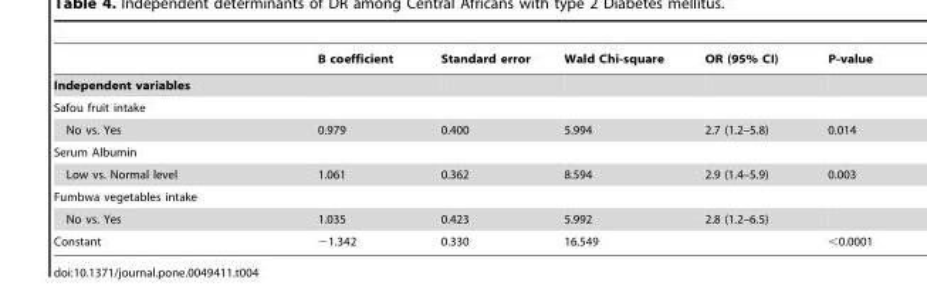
<table><thead><tr><td></td><td>B coefficient</td><td>Standard error</td><td>Wald Chi-square</td><td>OR (95% CI)</td><td>P-value</td></tr></thead><tbody><tr><td colspan="6">Independent variables</td></tr><tr><td colspan="6">Safou fruit intake</td></tr><tr><td>No vs. Yes</td><td>0.979</td><td>0.400</td><td>5.994</td><td>2.7 (1.2–5.8)</td><td>0.014</td></tr><tr><td colspan="6">Serum Albumin</td></tr><tr><td>Low vs. Normal level</td><td>1.061</td><td>0.362</td><td>8.594</td><td>2.9 (1.4–5.9)</td><td>0.003</td></tr><tr><td colspan="6">Fumbwa vegetables intake</td></tr><tr><td>No vs. Yes</td><td>1.035</td><td>0.423</td><td>5.992</td><td>2.8 (1.2–6.5)</td><td></td></tr><tr><td>Constant</td><td>−1.342</td><td>0.330</td><td>16.549</td><td></td><td>&lt;0.0001</td></tr></tbody></table>